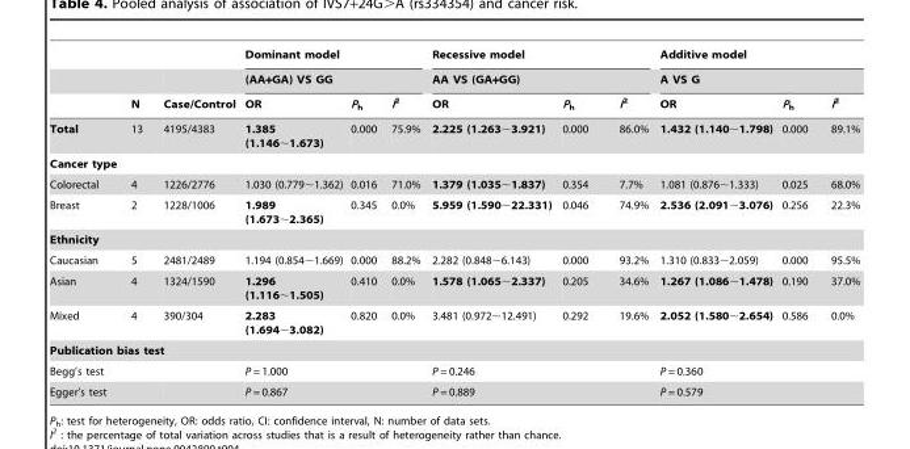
<table><thead><tr><td rowspan="3"></td><td rowspan="3">N</td><td rowspan="3">Case/Control</td><td rowspan="2" colspan="3">Dominant model (AA+GA) VS GG</td><td rowspan="2" colspan="3">Recessive model AA VS (GA+GG)</td><td rowspan="2" colspan="3">Additive model A VS G</td></tr><tr></tr><tr><td>OR</td><td>P<sub>h</sub></td><td>I<sup>2</sup></td><td>OR</td><td>P<sub>h</sub></td><td>I<sup>2</sup></td><td>OR</td><td>P<sub>h</sub></td><td>I<sup>2</sup></td></tr></thead><tbody><tr><td>Total</td><td>13</td><td>4195/4383</td><td>1.385 (1.146∼1.673)</td><td>0.000</td><td>75.9%</td><td>2.225 (1.263∼3.921)</td><td>0.000</td><td>86.0%</td><td>1.432 (1.140∼1.798)</td><td>0.000</td><td>89.1%</td></tr><tr><td colspan="12">Cancer type</td></tr><tr><td>Colorectal</td><td>4</td><td>1226/2776</td><td>1.030 (0.779∼1.362)</td><td>0.016</td><td>71.0%</td><td>1.379 (1.035∼1.837)</td><td>0.354</td><td>7.7%</td><td>1.081 (0.876∼1.333)</td><td>0.025</td><td>68.0%</td></tr><tr><td>Breast</td><td>2</td><td>1228/1006</td><td>1.989 (1.673∼2.365)</td><td>0.345</td><td>0.0%</td><td>5.959 (1.590∼22.331)</td><td>0.046</td><td>74.9%</td><td>2.536 (2.091∼3.076)</td><td>0.256</td><td>22.3%</td></tr><tr><td colspan="12">Ethnicity</td></tr><tr><td>Caucasian</td><td>5</td><td>2481/2489</td><td>1.194 (0.854∼1.669)</td><td>0.000</td><td>88.2%</td><td>2.282 (0.848∼6.143)</td><td>0.000</td><td>93.2%</td><td>1.310 (0.833∼2.059)</td><td>0.000</td><td>95.5%</td></tr><tr><td>Asian</td><td>4</td><td>1324/1590</td><td>1.296 (1.116∼1.505)</td><td>0.410</td><td>0.0%</td><td>1.578 (1.065∼2.337)</td><td>0.205</td><td>34.6%</td><td>1.267 (1.086∼1.478)</td><td>0.190</td><td>37.0%</td></tr><tr><td>Mixed</td><td>4</td><td>390/304</td><td>2.283 (1.694∼3.082)</td><td>0.820</td><td>0.0%</td><td>3.481 (0.972∼12.491)</td><td>0.292</td><td>19.6%</td><td>2.052 (1.580∼2.654)</td><td>0.586</td><td>0.0%</td></tr><tr><td colspan="12">Publication bias test</td></tr><tr><td>Begg’s test</td><td></td><td></td><td colspan="3">P = 1.000</td><td colspan="3">P = 0.246</td><td colspan="3">P = 0.360</td></tr><tr><td>Egger’s test</td><td></td><td></td><td colspan="3">P = 0.867</td><td colspan="3">P = 0.889</td><td colspan="3">P = 0.579</td></tr></tbody></table>